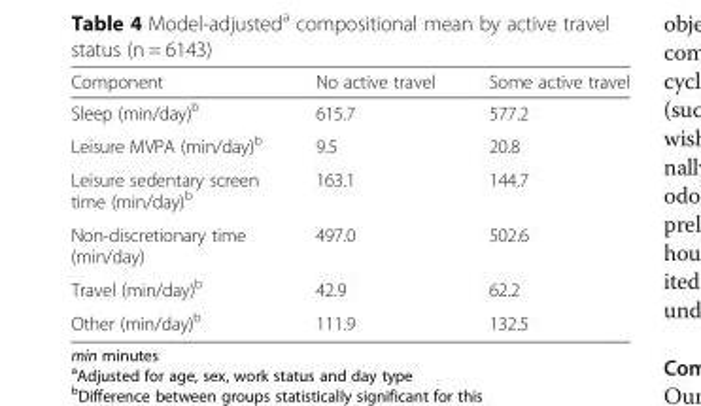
<table><thead><tr><td>Component</td><td>No active travel</td><td>Some active travel</td></tr></thead><tbody><tr><td>Sleep (min/day)<sup>b</sup></td><td>615.7</td><td>577.2</td></tr><tr><td>Leisure MVPA (min/day)<sup>b</sup></td><td>9.5</td><td>20.8</td></tr><tr><td>Leisure sedentary screen time (min/day)<sup>b</sup></td><td>163.1</td><td>144.7</td></tr><tr><td>Non-discretionary time (min/day)</td><td>497.0</td><td>502.6</td></tr><tr><td>Travel (min/day)<sup>b</sup></td><td>42.9</td><td>62.2</td></tr><tr><td>Other (min/day)<sup>b</sup></td><td>111.9</td><td>132.5</td></tr></tbody></table>